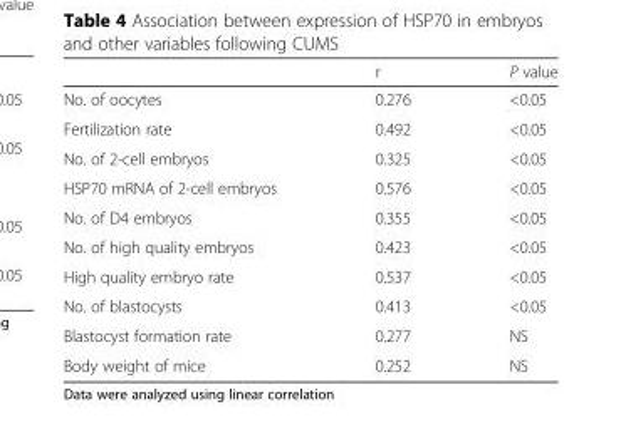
<table><thead><tr><td></td><td>r</td><td>P value</td></tr></thead><tbody><tr><td>No. of oocytes</td><td>0.276</td><td>&lt;0.05</td></tr><tr><td>Fertilization rate</td><td>0.492</td><td>&lt;0.05</td></tr><tr><td>No. of 2-cell embryos</td><td>0.325</td><td>&lt;0.05</td></tr><tr><td>HSP70 mRNA of 2-cell embryos</td><td>0.576</td><td>&lt;0.05</td></tr><tr><td>No. of D4 embryos</td><td>0.355</td><td>&lt;0.05</td></tr><tr><td>No. of high quality embryos</td><td>0.423</td><td>&lt;0.05</td></tr><tr><td>High quality embryo rate</td><td>0.537</td><td>&lt;0.05</td></tr><tr><td>No. of blastocysts</td><td>0.413</td><td>&lt;0.05</td></tr><tr><td>Blastocyst formation rate</td><td>0.277</td><td>NS</td></tr><tr><td>Body weight of mice</td><td>0.252</td><td>NS</td></tr></tbody></table>